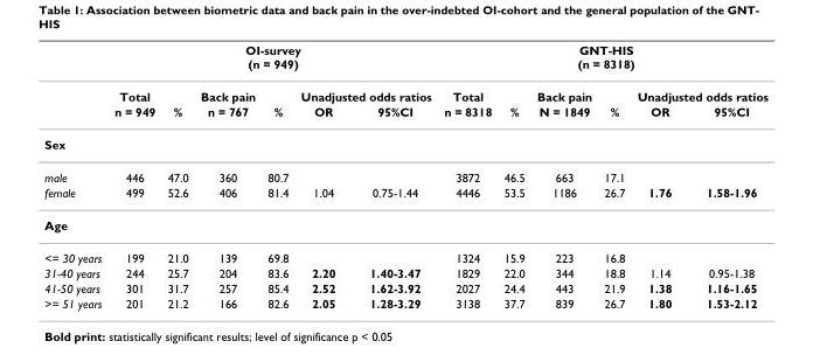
<table><thead><tr><td rowspan="3"></td><td colspan="6">OI-survey (n = 949)</td><td colspan="6">GNT-HIS (n = 8318)</td></tr><tr><td rowspan="2">Total n = 949</td><td rowspan="2">%</td><td rowspan="2">Back pain n = 767</td><td rowspan="2">%</td><td colspan="2">Unadjusted odds ratios</td><td rowspan="2">Total n = 8318</td><td rowspan="2">%</td><td rowspan="2">Back pain N = 1849</td><td rowspan="2">%</td><td colspan="2">Unadjusted odds ratios</td></tr><tr><td>OR</td><td>95%CI</td><td>OR</td><td>95%CI</td></tr></thead><tbody><tr><td colspan="13">Sex</td></tr><tr><td>male</td><td>446</td><td>47.0</td><td>360</td><td>80.7</td><td></td><td></td><td>3872</td><td>46.5</td><td>663</td><td>17.1</td><td></td><td></td></tr><tr><td>female</td><td>499</td><td>52.6</td><td>406</td><td>81.4</td><td>1.04</td><td>0.75-1.44</td><td>4446</td><td>53.5</td><td>1186</td><td>26.7</td><td>1.76</td><td>1.58-1.96</td></tr><tr><td colspan="13">Age</td></tr><tr><td>&lt;= 30 years</td><td>199</td><td>21.0</td><td>139</td><td>69.8</td><td></td><td></td><td>1324</td><td>15.9</td><td>223</td><td>16.8</td><td></td><td></td></tr><tr><td>31-40 years</td><td>244</td><td>25.7</td><td>204</td><td>83.6</td><td>2.20</td><td>1.40-3.47</td><td>1829</td><td>22.0</td><td>344</td><td>18.8</td><td>1.14</td><td>0.95-1.38</td></tr><tr><td>41-50 years</td><td>301</td><td>31.7</td><td>257</td><td>85.4</td><td>2.52</td><td>1.62-3.92</td><td>2027</td><td>24.4</td><td>443</td><td>21.9</td><td>1.38</td><td>1.16-1.65</td></tr><tr><td>&gt;= 51 years</td><td>201</td><td>21.2</td><td>166</td><td>82.6</td><td>2.05</td><td>1.28-3.29</td><td>3138</td><td>37.7</td><td>839</td><td>26.7</td><td>1.80</td><td>1.53-2.12</td></tr></tbody></table>